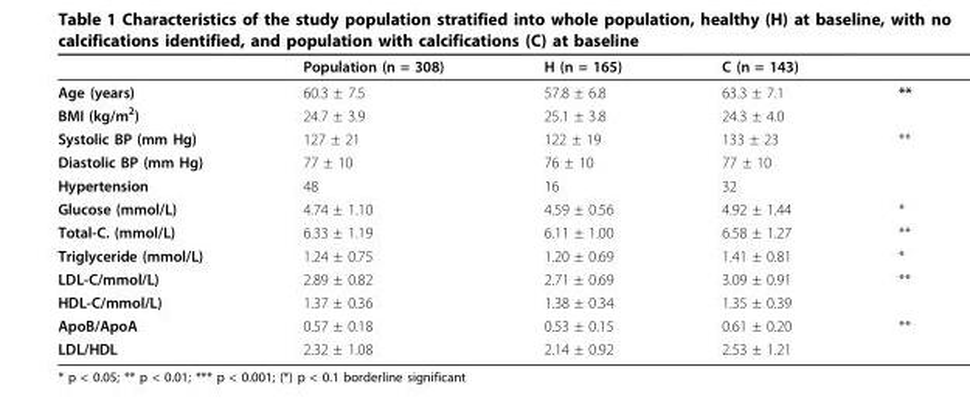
<table><thead><tr><td></td><td>Population (n = 308)</td><td>H (n = 165)</td><td>C (n = 143)</td><td></td></tr></thead><tbody><tr><td>Age (years)</td><td>60.3 ± 7.5</td><td>57.8 ± 6.8</td><td>63.3 ± 7.1</td><td>**</td></tr><tr><td>BMI (kg/m<sup>2</sup>)</td><td>24.7 ± 3.9</td><td>25.1 ± 3.8</td><td>24.3 ± 4.0</td><td></td></tr><tr><td>Systolic BP (mm Hg)</td><td>127 ± 21</td><td>122 ± 19</td><td>133 ± 23</td><td>**</td></tr><tr><td>Diastolic BP (mm Hg)</td><td>77 ± 10</td><td>76 ± 10</td><td>77 ± 10</td><td></td></tr><tr><td>Hypertension</td><td>48</td><td>16</td><td>32</td><td></td></tr><tr><td>Glucose (mmol/L)</td><td>4.74 ± 1.10</td><td>4.59 ± 0.56</td><td>4.92 ± 1.44</td><td>*</td></tr><tr><td>Total-C. (mmol/L)</td><td>6.33 ± 1.19</td><td>6.11 ± 1.00</td><td>6.58 ± 1.27</td><td>**</td></tr><tr><td>Triglyceride (mmol/L)</td><td>1.24 ± 0.75</td><td>1.20 ± 0.69</td><td>1.41 ± 0.81</td><td>*</td></tr><tr><td>LDL-C/mmol/L)</td><td>2.89 ± 0.82</td><td>2.71 ± 0.69</td><td>3.09 ± 0.91</td><td>**</td></tr><tr><td>HDL-C/mmol/L)</td><td>1.37 ± 0.36</td><td>1.38 ± 0.34</td><td>1.35 ± 0.39</td><td></td></tr><tr><td>ApoB/ApoA</td><td>0.57 ± 0.18</td><td>0.53 ± 0.15</td><td>0.61 ± 0.20</td><td>**</td></tr><tr><td>LDL/HDL</td><td>2.32 ± 1.08</td><td>2.14 ± 0.92</td><td>2.53 ± 1.21</td><td></td></tr></tbody></table>